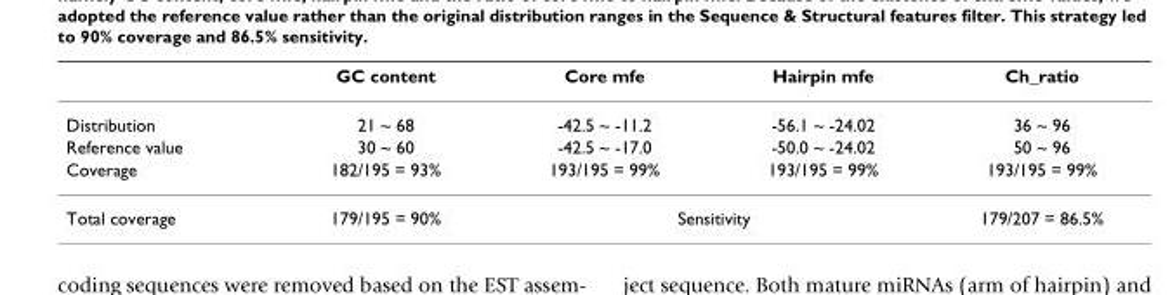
<table><thead><tr><td></td><td>GC content</td><td>Core mfe</td><td>Hairpin mfe</td><td>Ch_ratio</td></tr></thead><tbody><tr><td>Distribution</td><td>21 ~ 68</td><td>-42.5 ~ -11.2</td><td>-56.1 ~ -24.02</td><td>36 ~ 96</td></tr><tr><td>Reference value</td><td>30 ~ 60</td><td>-42.5 ~ -17.0</td><td>-50.0 ~ -24.02</td><td>50 ~ 96</td></tr><tr><td>Coverage</td><td>182/195 = 93%</td><td>193/195 = 99%</td><td>193/195 = 99%</td><td>193/195 = 99%</td></tr><tr><td>Total coverage</td><td>179/195 = 90%</td><td colspan="2">Sensitivity</td><td>179/207 = 86.5%</td></tr></tbody></table>